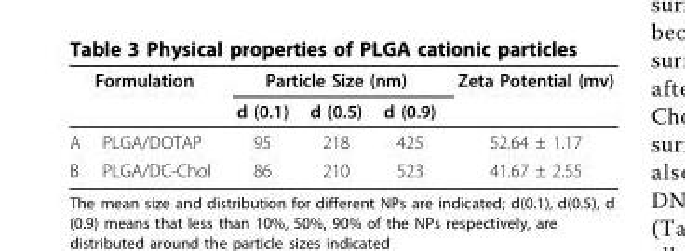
<table><thead><tr><td colspan="2">Formulation</td><td colspan="3">Particle Size (nm)</td><td rowspan="2">Zeta Potential (mv)</td></tr><tr><td></td><td></td><td>d (0.1)</td><td>d (0.5)</td><td>d (0.9)</td></tr></thead><tbody><tr><td>A</td><td>PLGA/DOTAP</td><td>95</td><td>218</td><td>425</td><td>52.64 ± 1.17</td></tr><tr><td>B</td><td>PLGA/DC-Chol</td><td>86</td><td>210</td><td>523</td><td>41.67 ± 2.55</td></tr></tbody></table>